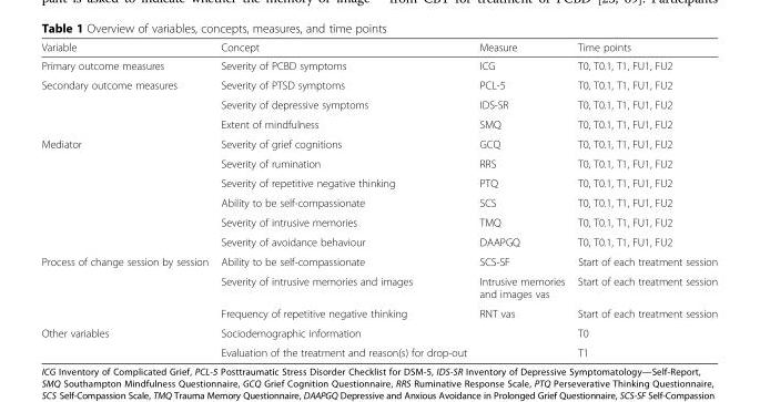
<table><thead><tr><td>Variable</td><td>Concept</td><td>Measure</td><td>Time points</td></tr></thead><tbody><tr><td>Primary outcome measures</td><td>Severity of PCBD symptoms</td><td>ICG</td><td>T0, T0.1, T1, FU1, FU2</td></tr><tr><td rowspan="3">Secondary outcome measures</td><td>Severity of PTSD symptoms</td><td>PCL-5</td><td>T0, T0.1, T1, FU1, FU2</td></tr><tr><td>Severity of depressive symptoms</td><td>IDS-SR</td><td>T0, T0.1, T1, FU1, FU2</td></tr><tr><td>Extent of mindfulness</td><td>SMQ</td><td>T0, T0.1, T1, FU1, FU2</td></tr><tr><td rowspan="6">Mediator</td><td>Severity of grief cognitions</td><td>GCQ</td><td>T0, T0.1, T1, FU1, FU2</td></tr><tr><td>Severity of rumination</td><td>RRS</td><td>T0, T0.1, T1, FU1, FU2</td></tr><tr><td>Severity of repetitive negative thinking</td><td>PTQ</td><td>T0, T0.1, T1, FU1, FU2</td></tr><tr><td>Ability to be self-compassionate</td><td>SCS</td><td>T0, T0.1, T1, FU1, FU2</td></tr><tr><td>Severity of intrusive memories</td><td>TMQ</td><td>T0, T0.1, T1, FU1, FU2</td></tr><tr><td>Severity of avoidance behaviour</td><td>DAAPGQ</td><td>T0, T0.1, T1, FU1, FU2</td></tr><tr><td rowspan="3">Process of change session by session</td><td>Ability to be self-compassionate</td><td>SCS-SF</td><td>Start of each treatment session</td></tr><tr><td>Severity of intrusive memories and images</td><td>Intrusive memories and images vas</td><td>Start of each treatment session</td></tr><tr><td>Frequency of repetitive negative thinking</td><td>RNT vas</td><td>Start of each treatment session</td></tr><tr><td rowspan="2">Other variables</td><td>Sociodemographic information</td><td></td><td>T0</td></tr><tr><td>Evaluation of the treatment and reason(s) for drop-out</td><td></td><td>T1</td></tr></tbody></table>